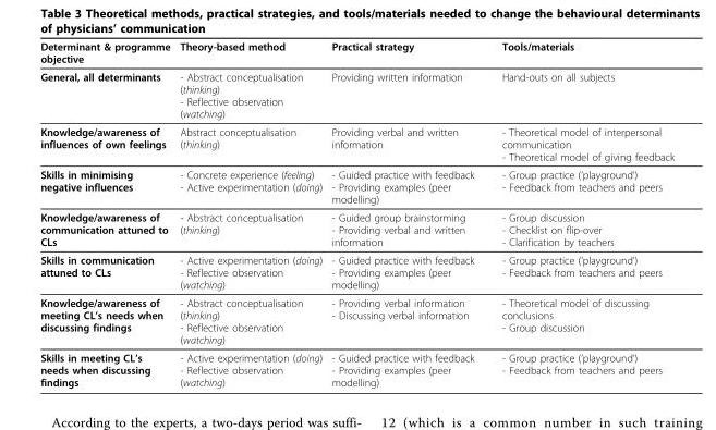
<table><thead><tr><td>Determinant &amp; programme objective</td><td>Theory-based method</td><td>Practical strategy</td><td>Tools/materials</td></tr></thead><tbody><tr><td>General, all determinants</td><td>- Abstract conceptualisation (thinking) - Reflective observation (watching)</td><td>Providing written information</td><td>Hand-outs on all subjects</td></tr><tr><td>Knowledge/awareness of influences of own feelings</td><td>Abstract conceptualisation (thinking)</td><td>Providing verbal and written information</td><td>- Theoretical model of interpersonal communication - Theoretical model of giving feedback</td></tr><tr><td>Skills in minimising negative influences</td><td>- Concrete experience (feeling) - Active experimentation (doing)</td><td>- Guided practice with feedback - Providing examples (peer modelling)</td><td>- Group practice (’playground’) - Feedback from teachers and peers</td></tr><tr><td>Knowledge/awareness of communication attuned to CLs</td><td>- Abstract conceptualisation (thinking)</td><td>- Guided group brainstorming - Providing verbal and written information</td><td>- Group discussion - Checklist on flip-over - Clarification by teachers</td></tr><tr><td>Skills in communication attuned to CLs</td><td>- Active experimentation (doing) - Reflective observation (watching)</td><td>- Guided practice with feedback - Providing examples (peer modelling)</td><td>- Group practice (’playground’) - Feedback from teachers and peers</td></tr><tr><td>Knowledge/awareness of meeting CL’s needs when discussing findings</td><td>- Abstract conceptualisation (thinking) - Reflective observation (watching)</td><td>- Providing verbal information - Discussing verbal information</td><td>- Theoretical model of discussing conclusions - Group discussion</td></tr><tr><td>Skills in meeting CL’s needs when discussing findings</td><td>- Active experimentation (doing) - Reflective observation (watching)</td><td>- Guided practice with feedback - Providing examples (peer modelling)</td><td>- Group practice (’playground’) - Feedback from teachers and peers</td></tr></tbody></table>